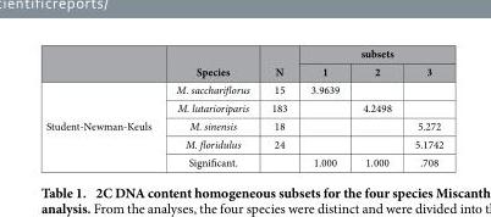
<table><thead><tr><td rowspan="2"></td><td rowspan="2">Species</td><td rowspan="2">N</td><td colspan="3">subsets</td></tr><tr><td>1</td><td>2</td><td>3</td></tr></thead><tbody><tr><td rowspan="5">Student-Newman-Keuls</td><td>M. sacchariflorus</td><td>15</td><td>3.9639</td><td></td><td></td></tr><tr><td>M. lutarioriparis</td><td>183</td><td></td><td>4.2498</td><td></td></tr><tr><td>M. sinensis</td><td>18</td><td></td><td></td><td>5.272</td></tr><tr><td>M. floridulus</td><td>24</td><td></td><td></td><td>5.1742</td></tr><tr><td>Significant.</td><td></td><td>1.000</td><td>1.000</td><td>.708</td></tr></tbody></table>